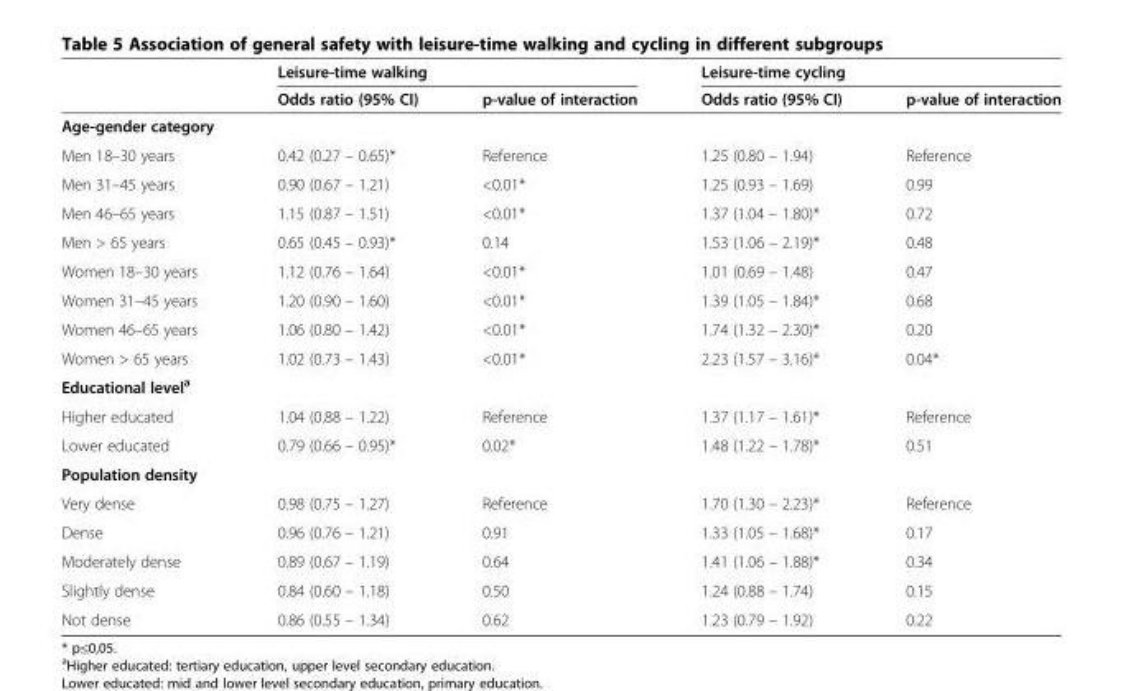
<table><thead><tr><td rowspan="2"></td><td colspan="2">Leisure-time walking</td><td colspan="2">Leisure-time cycling</td></tr><tr><td>Odds ratio (95% CI)</td><td>p-value of interaction</td><td>Odds ratio (95% CI)</td><td>p-value of interaction</td></tr></thead><tbody><tr><td colspan="5">Age-gender category</td></tr><tr><td>Men 18–30 years</td><td>0.42 (0.27 – 0.65)*</td><td>Reference</td><td>1.25 (0.80 – 1.94)</td><td>Reference</td></tr><tr><td>Men 31–45 years</td><td>0.90 (0.67 – 1.21)</td><td>&lt;0.01*</td><td>1.25 (0.93 – 1.69)</td><td>0.99</td></tr><tr><td>Men 46–65 years</td><td>1.15 (0.87 – 1.51)</td><td>&lt;0.01*</td><td>1.37 (1.04 – 1.80)*</td><td>0.72</td></tr><tr><td>Men &gt; 65 years</td><td>0.65 (0.45 – 0.93)*</td><td>0.14</td><td>1.53 (1.06 – 2.19)*</td><td>0.48</td></tr><tr><td>Women 18–30 years</td><td>1.12 (0.76 – 1.64)</td><td>&lt;0.01*</td><td>1.01 (0.69 – 1.48)</td><td>0.47</td></tr><tr><td>Women 31–45 years</td><td>1.20 (0.90 – 1.60)</td><td>&lt;0.01*</td><td>1.39 (1.05 – 1.84)*</td><td>0.68</td></tr><tr><td>Women 46–65 years</td><td>1.06 (0.80 – 1.42)</td><td>&lt;0.01*</td><td>1.74 (1.32 – 2.30)*</td><td>0.20</td></tr><tr><td>Women &gt; 65 years</td><td>1.02 (0.73 – 1.43)</td><td>&lt;0.01*</td><td>2.23 (1.57 – 3.16)*</td><td>0.04*</td></tr><tr><td colspan="5">Educational level<sup>a</sup></td></tr><tr><td>Higher educated</td><td>1.04 (0.88 – 1.22)</td><td>Reference</td><td>1.37 (1.17 – 1.61)*</td><td>Reference</td></tr><tr><td>Lower educated</td><td>0.79 (0.66 – 0.95)*</td><td>0.02*</td><td>1.48 (1.22 – 1.78)*</td><td>0.51</td></tr><tr><td colspan="5">Population density</td></tr><tr><td>Very dense</td><td>0.98 (0.75 – 1.27)</td><td>Reference</td><td>1.70 (1.30 – 2.23)*</td><td>Reference</td></tr><tr><td>Dense</td><td>0.96 (0.76 – 1.21)</td><td>0.91</td><td>1.33 (1.05 – 1.68)*</td><td>0.17</td></tr><tr><td>Moderately dense</td><td>0.89 (0.67 – 1.19)</td><td>0.64</td><td>1.41 (1.06 – 1.88)*</td><td>0.34</td></tr><tr><td>Slightly dense</td><td>0.84 (0.60 – 1.18)</td><td>0.50</td><td>1.24 (0.88 – 1.74)</td><td>0.15</td></tr><tr><td>Not dense</td><td>0.86 (0.55 – 1.34)</td><td>0.62</td><td>1.23 (0.79 – 1.92)</td><td>0.22</td></tr></tbody></table>